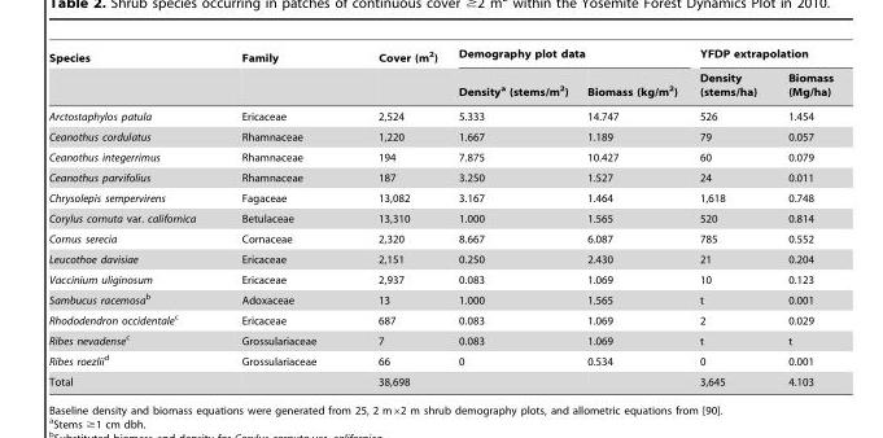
<table><thead><tr><td rowspan="2">Species</td><td rowspan="2">Family</td><td rowspan="2">Cover (m<sup>2</sup>)</td><td colspan="2">Demography plot data</td><td colspan="2">YFDP extrapolation</td></tr><tr><td>Density<sup>a</sup> (stems/m<sup>2</sup>)</td><td>Biomass (kg/m<sup>2</sup>)</td><td>Density (stems/ha)</td><td>Biomass (Mg/ha)</td></tr></thead><tbody><tr><td>Arctostaphylos patula</td><td>Ericaceae</td><td>2,524</td><td>5.333</td><td>14.747</td><td>526</td><td>1.454</td></tr><tr><td>Ceanothus cordulatus</td><td>Rhamnaceae</td><td>1,220</td><td>1.667</td><td>1.189</td><td>79</td><td>0.057</td></tr><tr><td>Ceanothus integerrimus</td><td>Rhamnaceae</td><td>194</td><td>7.875</td><td>10.427</td><td>60</td><td>0.079</td></tr><tr><td>Ceanothus parvifolius</td><td>Rhamnaceae</td><td>187</td><td>3.250</td><td>1.527</td><td>24</td><td>0.011</td></tr><tr><td>Chrysolepis sempervirens</td><td>Fagaceae</td><td>13,082</td><td>3.167</td><td>1.464</td><td>1,618</td><td>0.748</td></tr><tr><td>Corylus cornuta var. californica</td><td>Betulaceae</td><td>13,310</td><td>1.000</td><td>1.565</td><td>520</td><td>0.814</td></tr><tr><td>Cornus serecia</td><td>Cornaceae</td><td>2,320</td><td>8.667</td><td>6.087</td><td>785</td><td>0.552</td></tr><tr><td>Leucothoe davisiae</td><td>Ericaceae</td><td>2,151</td><td>0.250</td><td>2.430</td><td>21</td><td>0.204</td></tr><tr><td>Vaccinium uliginosum</td><td>Ericaceae</td><td>2,937</td><td>0.083</td><td>1.069</td><td>10</td><td>0.123</td></tr><tr><td>Sambucus racemosab</td><td>Adoxaceae</td><td>13</td><td>1.000</td><td>1.565</td><td>t</td><td>0.001</td></tr><tr><td>Rhododendron occidentalec</td><td>Ericaceae</td><td>687</td><td>0.083</td><td>1.069</td><td>2</td><td>0.029</td></tr><tr><td>Ribes nevadensec</td><td>Grossulariaceae</td><td>7</td><td>0.083</td><td>1.069</td><td>t</td><td>t</td></tr><tr><td>Ribes roezliid</td><td>Grossulariaceae</td><td>66</td><td>0</td><td>0.534</td><td>0</td><td>0.001</td></tr><tr><td>Total</td><td></td><td>38,698</td><td></td><td></td><td>3,645</td><td>4.103</td></tr></tbody></table>